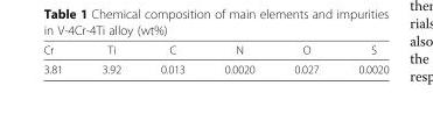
<table><thead><tr><td>Cr</td><td>Ti</td><td>C</td><td>N</td><td>O</td><td>S</td></tr></thead><tbody><tr><td>3.81</td><td>3.92</td><td>0.013</td><td>0.0020</td><td>0.027</td><td>0.0020</td></tr></tbody></table>